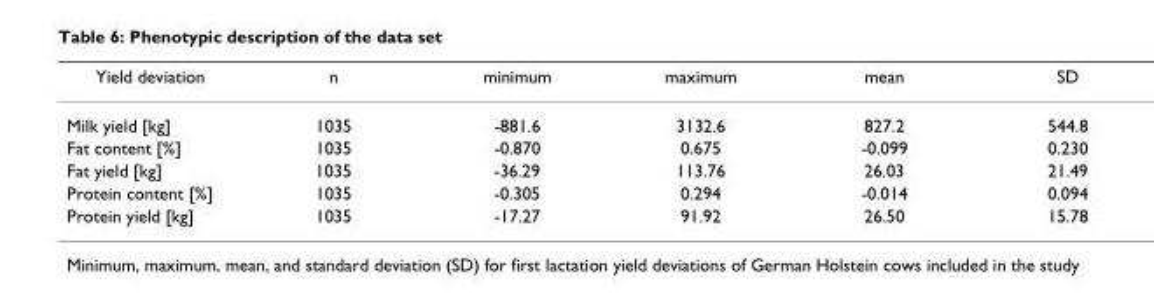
<table><thead><tr><td>Yield deviation</td><td>n</td><td>minimum</td><td>maximum</td><td>mean</td><td>SD</td></tr></thead><tbody><tr><td>Milk yield [kg]</td><td>1035</td><td>-881.6</td><td>3132.6</td><td>827.2</td><td>544.8</td></tr><tr><td>Fat content [%]</td><td>1035</td><td>-0.870</td><td>0.675</td><td>-0.099</td><td>0.230</td></tr><tr><td>Fat yield [kg]</td><td>1035</td><td>-36.29</td><td>113.76</td><td>26.03</td><td>21.49</td></tr><tr><td>Protein content [%]</td><td>1035</td><td>-0.305</td><td>0.294</td><td>-0.014</td><td>0.094</td></tr><tr><td>Protein yield [kg]</td><td>1035</td><td>-17.27</td><td>91.92</td><td>26.50</td><td>15.78</td></tr></tbody></table>